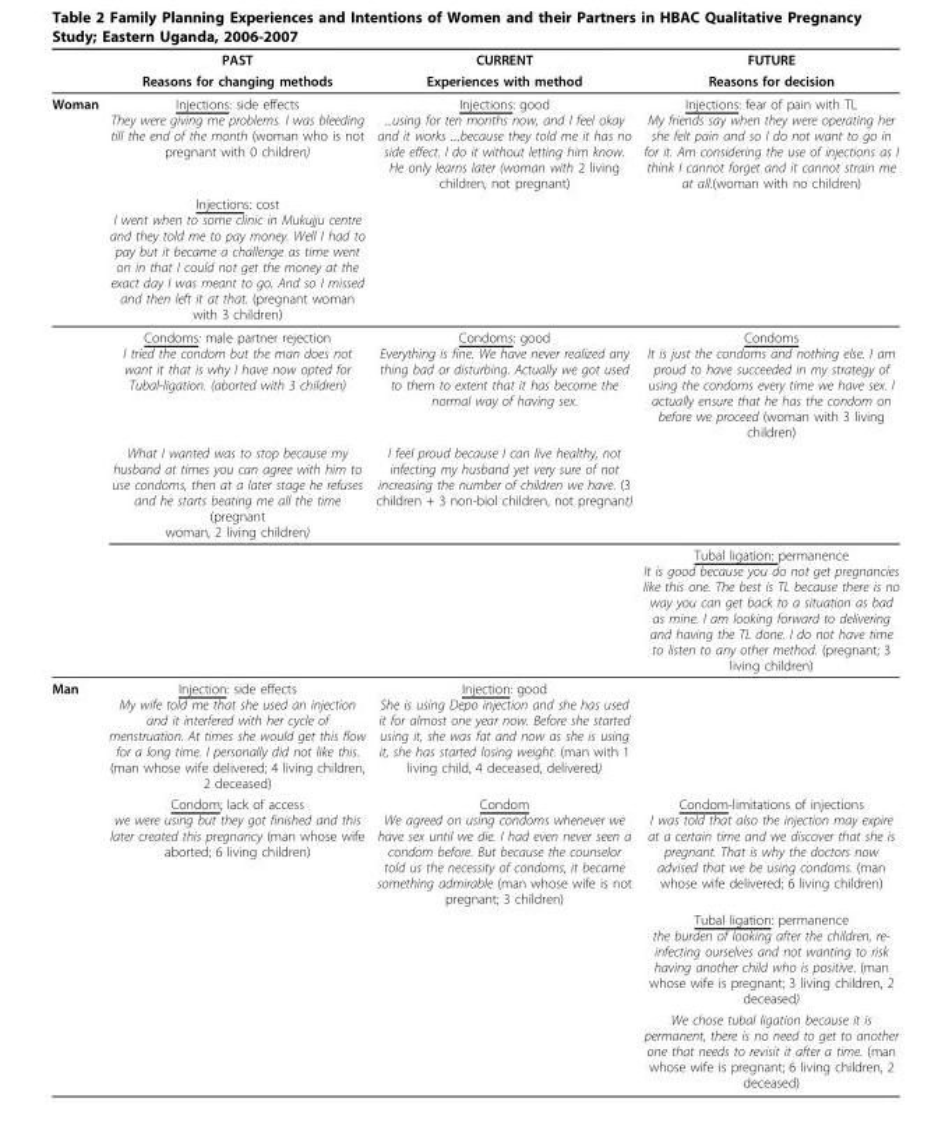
<table><thead><tr><td rowspan="2"></td><td rowspan="2">PAST Reasons for changing methods</td><td rowspan="2">CURRENT Experiences with method</td><td rowspan="2">FUTURE Reasons for decision</td></tr><tr></tr></thead><tbody><tr><td rowspan="5">Woman</td><td>Injections: side effects They were giving me problems. I was bleeding till the end of the month (woman who is not pregnant with 0 children)</td><td>Injections: good ...using for ten months now, and I feel okay and it works ....because they told me it has no side effect. I do it without letting him know. He only learns later (woman with 2 living children, not pregnant)</td><td>Injections: fear of pain with TL My friends say when they were operating her she felt pain and so I do not want to go in for it. Am considering the use of injections as I think I cannot forget and it cannot strain me at all.(woman with no children)</td></tr><tr><td>Injections: cost I went when to some clinic in Mukujju centre and they told me to pay money. Well I had to pay but it became a challenge as time went on in that I could not get the money at the exact day I was meant to go. And so I missed and then left it at that. (pregnant woman with 3 children)</td><td></td><td></td></tr><tr><td>Condoms: male partner rejection I tried the condom but the man does not want it that is why I have now opted for Tubal-ligation. (aborted with 3 children)</td><td>Condoms: good Everything is fine. We have never realized any thing bad or disturbing. Actually we got used to them to extent that it has become the normal way of having sex.</td><td>Condoms It is just the condoms and nothing else. I am proud to have succeeded in my strategy of using the condoms every time we have sex. I actually ensure that he has the condom on before we proceed (woman with 3 living children)</td></tr><tr><td>What I wanted was to stop because my husband at times you can agree with him to use condoms, then at a later stage he refuses and he starts beating me all the time (pregnant woman, 2 living children)</td><td>I feel proud because I can live healthy, not infecting my husband yet very sure of not increasing the number of children we have. (3 children + 3 non-biol children, not pregnant)</td><td></td></tr><tr><td></td><td></td><td>Tubal ligation: permanence It is good because you do not get pregnancies like this one. The best is TL because there is no way you can get back to a situation as bad as mine. I am looking forward to delivering and having the TL done. I do not have time to listen to any other method. (pregnant; 3 living children)</td></tr><tr><td rowspan="4">Man</td><td>Injection: side effects My wife told me that she used an injection and it interfered with her cycle of menstruation. At times she would get this flow for a long time. I personally did not like this. (man whose wife delivered; 4 living children, 2 deceased)</td><td>Injection: good She is using Depo injection and she has used it for almost one year now. Before she started using it, she was fat and now as she is using it, she has started losing weight. (man with 1 living child, 4 deceased, delivered)</td><td></td></tr><tr><td>Condom; lack of access we were using but they got finished and this later created this pregnancy (man whose wife aborted; 6 living children)</td><td>Condom We agreed on using condoms whenever we have sex until we die. I had even never seen a condom before. But because the counselor told us the necessity of condoms, it became something admirable (man whose wife is not pregnant; 3 children)</td><td>Condom-limitations of injections I was told that also the injection may expire at a certain time and we discover that she is pregnant. That is why the doctors now advised that we be using condoms. (man whose wife delivered; 6 living children)</td></tr><tr><td></td><td></td><td>Tubal ligation: permanence the burden of looking after the children, re- infecting ourselves and not wanting to risk having another child who is positive. (man whose wife is pregnant; 3 living children, 2 deceased)</td></tr><tr><td></td><td></td><td>We chose tubal ligation because it is permanent, there is no need to get to another one that needs to revisit it after a time. (man whose wife is pregnant; 6 living children, 2 deceased)</td></tr></tbody></table>